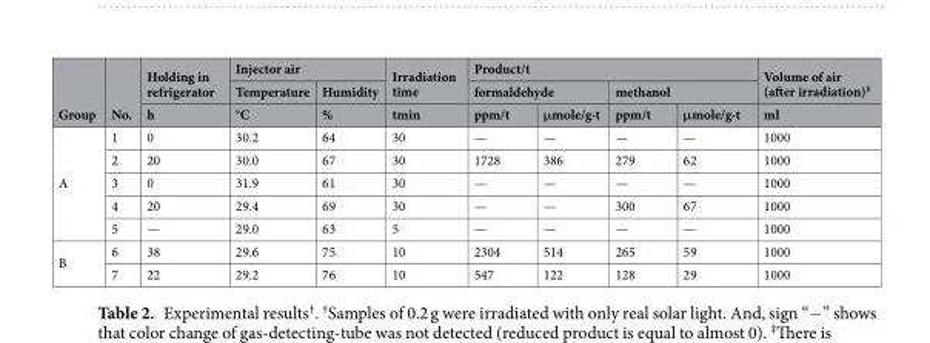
<table><thead><tr><td rowspan="3">Group</td><td rowspan="3">No.</td><td rowspan="3">Holding in refrigerator h</td><td colspan="2">Injector air</td><td rowspan="3">Irradiation time tmin</td><td colspan="4">Product/t</td><td rowspan="3">Volume of air (after irradiation)<sup>‡</sup> ml</td></tr><tr><td rowspan="2">Temperature °C</td><td rowspan="2">Humidity %</td><td colspan="2">formaldehyde</td><td colspan="2">methanol</td></tr><tr><td>ppm/t</td><td>μmole/g·t</td><td>ppm/t</td><td>μmole/g·t</td></tr></thead><tbody><tr><td rowspan="5">A</td><td>1</td><td>0</td><td>30.2</td><td>64</td><td>30</td><td>—</td><td>—</td><td>—</td><td>—</td><td>1000</td></tr><tr><td>2</td><td>20</td><td>30.0</td><td>67</td><td>30</td><td>1728</td><td>386</td><td>279</td><td>62</td><td>1000</td></tr><tr><td>3</td><td>0</td><td>31.9</td><td>61</td><td>30</td><td>—</td><td>—</td><td>—</td><td>—</td><td>1000</td></tr><tr><td>4</td><td>20</td><td>29.4</td><td>69</td><td>30</td><td>—</td><td>—</td><td>300</td><td>67</td><td>1000</td></tr><tr><td>5</td><td>—</td><td>29.0</td><td>63</td><td>5</td><td>—</td><td>—</td><td>—</td><td>—</td><td>1000</td></tr><tr><td rowspan="2">B</td><td>6</td><td>38</td><td>29.6</td><td>75</td><td>10</td><td>2304</td><td>514</td><td>265</td><td>59</td><td>1000</td></tr><tr><td>7</td><td>22</td><td>29.2</td><td>76</td><td>10</td><td>547</td><td>122</td><td>128</td><td>29</td><td>1000</td></tr></tbody></table>